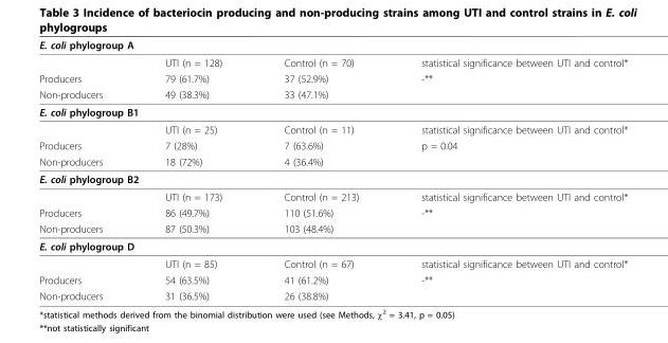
<table><thead><tr><td colspan="4">E. coli phylogroup A</td></tr><tr><td></td><td>UTI (n = 128)</td><td>Control (n = 70)</td><td>statistical significance between UTI and control*</td></tr></thead><tbody><tr><td>Producers</td><td>79 (61.7%)</td><td>37 (52.9%)</td><td>-**</td></tr><tr><td>Non-producers</td><td>49 (38.3%)</td><td>33 (47.1%)</td><td></td></tr><tr><td colspan="4">E. coli phylogroup B1</td></tr><tr><td></td><td>UTI (n = 25)</td><td>Control (n = 11)</td><td>statistical significance between UTI and control*</td></tr><tr><td>Producers</td><td>7 (28%)</td><td>7 (63.6%)</td><td>p = 0.04</td></tr><tr><td>Non-producers</td><td>18 (72%)</td><td>4 (36.4%)</td><td></td></tr><tr><td colspan="4">E. coli phylogroup B2</td></tr><tr><td></td><td>UTI (n = 173)</td><td>Control (n = 213)</td><td>statistical significance between UTI and control*</td></tr><tr><td>Producers</td><td>86 (49.7%)</td><td>110 (51.6%)</td><td>-**</td></tr><tr><td>Non-producers</td><td>87 (50.3%)</td><td>103 (48.4%)</td><td></td></tr><tr><td colspan="4">E. coli phylogroup D</td></tr><tr><td></td><td>UTI (n = 85)</td><td>Control (n = 67)</td><td>statistical significance between UTI and control*</td></tr><tr><td>Producers</td><td>54 (63.5%)</td><td>41 (61.2%)</td><td>-**</td></tr><tr><td>Non-producers</td><td>31 (36.5%)</td><td>26 (38.8%)</td><td></td></tr></tbody></table>